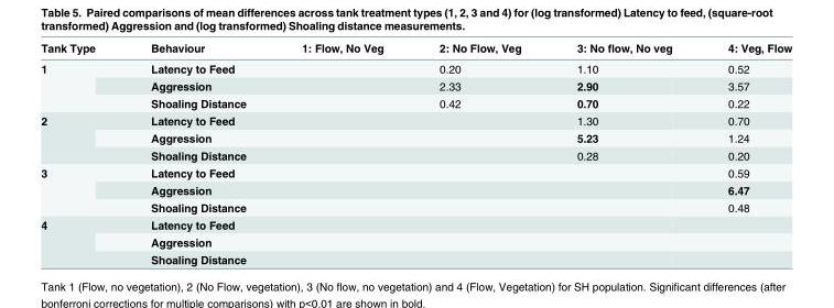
<table><thead><tr><td>Tank Type</td><td>Behaviour</td><td>1: Flow, No Veg</td><td>2: No Flow, Veg</td><td>3: No flow, No veg</td><td>4: Veg, Flow</td></tr></thead><tbody><tr><td rowspan="3">1</td><td>Latency to Feed</td><td></td><td>0.20</td><td>1.10</td><td>0.52</td></tr><tr><td>Aggression</td><td></td><td>2.33</td><td>2.90</td><td>3.57</td></tr><tr><td>Shoaling Distance</td><td></td><td>0.42</td><td>0.70</td><td>0.22</td></tr><tr><td rowspan="3">2</td><td>Latency to Feed</td><td></td><td></td><td>1.30</td><td>0.70</td></tr><tr><td>Aggression</td><td></td><td></td><td>5.23</td><td>1.24</td></tr><tr><td>Shoaling Distance</td><td></td><td></td><td>0.28</td><td>0.20</td></tr><tr><td rowspan="3">3</td><td>Latency to Feed</td><td></td><td></td><td></td><td>0.59</td></tr><tr><td>Aggression</td><td></td><td></td><td></td><td>6.47</td></tr><tr><td>Shoaling Distance</td><td></td><td></td><td></td><td>0.48</td></tr><tr><td rowspan="3">4</td><td>Latency to Feed</td><td></td><td></td><td></td><td></td></tr><tr><td>Aggression</td><td></td><td></td><td></td><td></td></tr><tr><td>Shoaling Distance</td><td></td><td></td><td></td><td></td></tr></tbody></table>